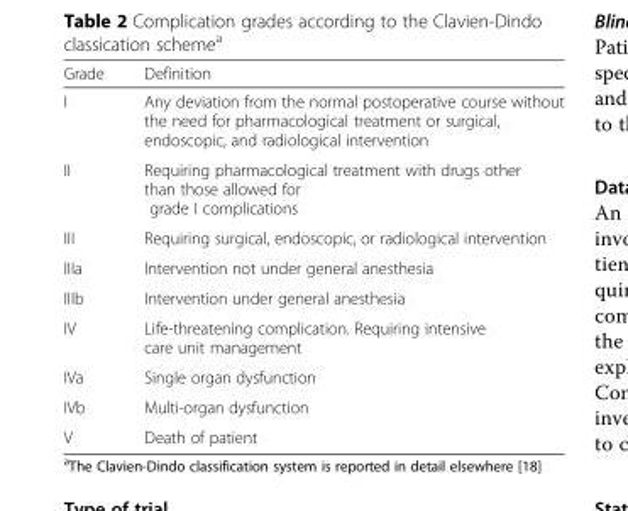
<table><thead><tr><td>Grade</td><td>Definition</td></tr></thead><tbody><tr><td>I</td><td>Any deviation from the normal postoperative course without the need for pharmacological treatment or surgical, endoscopic, and radiological intervention</td></tr><tr><td>II</td><td>Requiring pharmacological treatment with drugs other than those allowed for grade I complications</td></tr><tr><td>III</td><td>Requiring surgical, endoscopic, or radiological intervention</td></tr><tr><td>IIIa</td><td>Intervention not under general anesthesia</td></tr><tr><td>IIIb</td><td>Intervention under general anesthesia</td></tr><tr><td>IV</td><td>Life-threatening complication. Requiring intensive care unit management</td></tr><tr><td>IVa</td><td>Single organ dysfunction</td></tr><tr><td>IVb</td><td>Multi-organ dysfunction</td></tr><tr><td>V</td><td>Death of patient</td></tr></tbody></table>